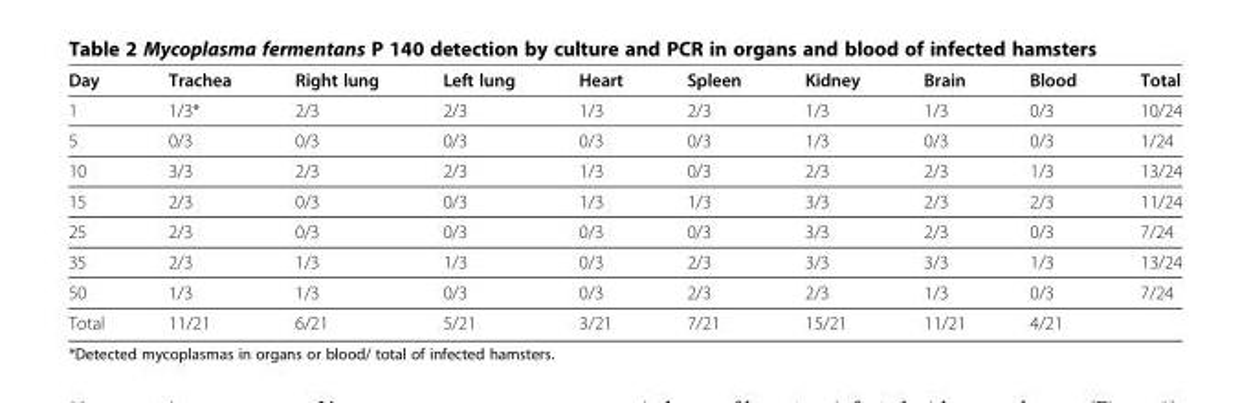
<table><thead><tr><td>Day</td><td>Trachea</td><td>Right lung</td><td>Left lung</td><td>Heart</td><td>Spleen</td><td>Kidney</td><td>Brain</td><td>Blood</td><td>Total</td></tr></thead><tbody><tr><td>1</td><td>1/3*</td><td>2/3</td><td>2/3</td><td>1/3</td><td>2/3</td><td>1/3</td><td>1/3</td><td>0/3</td><td>10/24</td></tr><tr><td>5</td><td>0/3</td><td>0/3</td><td>0/3</td><td>0/3</td><td>0/3</td><td>1/3</td><td>0/3</td><td>0/3</td><td>1/24</td></tr><tr><td>10</td><td>3/3</td><td>2/3</td><td>2/3</td><td>1/3</td><td>0/3</td><td>2/3</td><td>2/3</td><td>1/3</td><td>13/24</td></tr><tr><td>15</td><td>2/3</td><td>0/3</td><td>0/3</td><td>1/3</td><td>1/3</td><td>3/3</td><td>2/3</td><td>2/3</td><td>11/24</td></tr><tr><td>25</td><td>2/3</td><td>0/3</td><td>0/3</td><td>0/3</td><td>0/3</td><td>3/3</td><td>2/3</td><td>0/3</td><td>7/24</td></tr><tr><td>35</td><td>2/3</td><td>1/3</td><td>1/3</td><td>0/3</td><td>2/3</td><td>3/3</td><td>3/3</td><td>1/3</td><td>13/24</td></tr><tr><td>50</td><td>1/3</td><td>1/3</td><td>0/3</td><td>0/3</td><td>2/3</td><td>2/3</td><td>1/3</td><td>0/3</td><td>7/24</td></tr><tr><td>Total</td><td>11/21</td><td>6/21</td><td>5/21</td><td>3/21</td><td>7/21</td><td>15/21</td><td>11/21</td><td>4/21</td><td></td></tr></tbody></table>